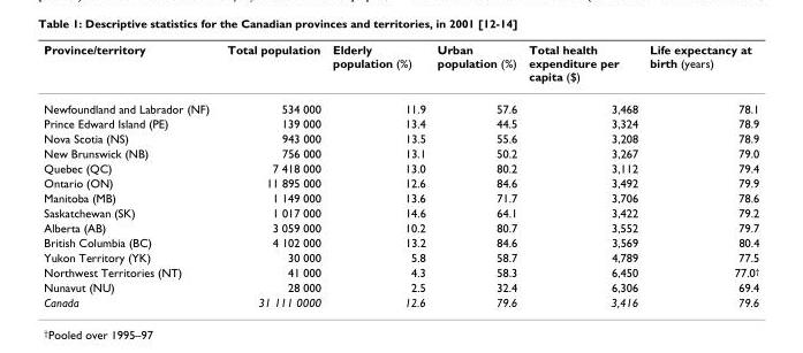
<table><thead><tr><td>Province/territory</td><td>Total population</td><td>Elderly population (%)</td><td>Urban population (%)</td><td>Total health expenditure per capita ($)</td><td>Life expectancy at birth (years)</td></tr></thead><tbody><tr><td>Newfoundland and Labrador (NF)</td><td>534 000</td><td>11.9</td><td>57.6</td><td>3,468</td><td>78.1</td></tr><tr><td>Prince Edward Island (PE)</td><td>139 000</td><td>13.4</td><td>44.5</td><td>3,324</td><td>78.9</td></tr><tr><td>Nova Scotia (NS)</td><td>943 000</td><td>13.5</td><td>55.6</td><td>3,208</td><td>78.9</td></tr><tr><td>New Brunswick (NB)</td><td>756 000</td><td>13.1</td><td>50.2</td><td>3,267</td><td>79.0</td></tr><tr><td>Quebec (QC)</td><td>7 418 000</td><td>13.0</td><td>80.2</td><td>3,112</td><td>79.4</td></tr><tr><td>Ontario (ON)</td><td>11 895 000</td><td>12.6</td><td>84.6</td><td>3,492</td><td>79.9</td></tr><tr><td>Manitoba (MB)</td><td>1 149 000</td><td>13.6</td><td>71.7</td><td>3,706</td><td>78.6</td></tr><tr><td>Saskatchewan (SK)</td><td>1 017 000</td><td>14.6</td><td>64.1</td><td>3,422</td><td>79.2</td></tr><tr><td>Alberta (AB)</td><td>3 059 000</td><td>10.2</td><td>80.7</td><td>3,552</td><td>79.7</td></tr><tr><td>British Columbia (BC)</td><td>4 102 000</td><td>13.2</td><td>84.6</td><td>3,569</td><td>80.4</td></tr><tr><td>Yukon Territory (YK)</td><td>30 000</td><td>5.8</td><td>58.7</td><td>4,789</td><td>77.5</td></tr><tr><td>Northwest Territories (NT)</td><td>41 000</td><td>4.3</td><td>58.3</td><td>6,450</td><td>77.0<sup>†</sup></td></tr><tr><td>Nunavut (NU)</td><td>28 000</td><td>2.5</td><td>32.4</td><td>6,306</td><td>69.4</td></tr><tr><td>Canada</td><td>31 111 0000</td><td>12.6</td><td>79.6</td><td>3,416</td><td>79.6</td></tr></tbody></table>